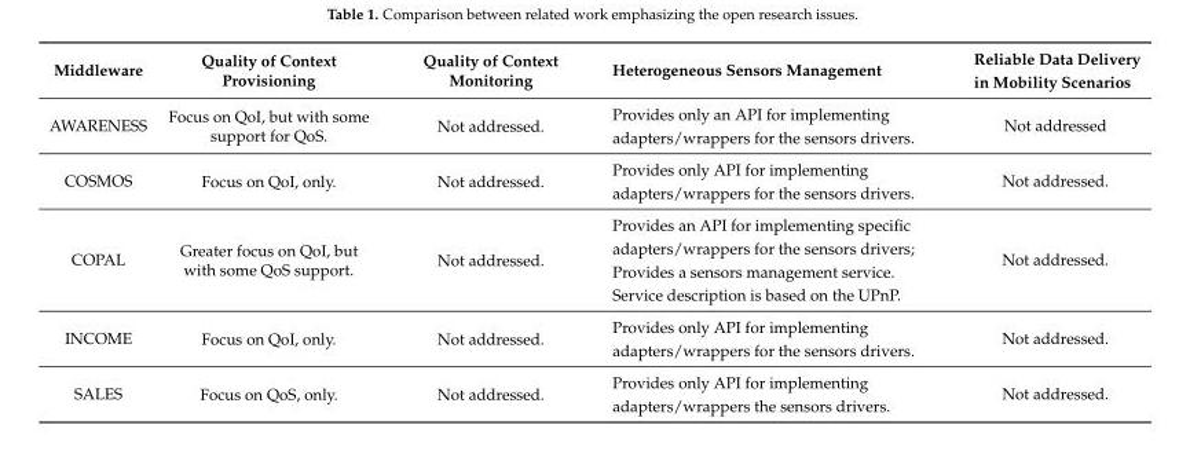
<table><thead><tr><td>Middleware</td><td>Quality of Context Provisioning</td><td>Quality of Context Monitoring</td><td>Heterogeneous Sensors Management</td><td>Reliable Data Delivery in Mobility Scenarios</td></tr></thead><tbody><tr><td>AWARENESS</td><td>Focus on QoI, but with some support for QoS.</td><td>Not addressed.</td><td>Provides only an API for implementing adapters/wrappers for the sensors drivers.</td><td>Not addressed</td></tr><tr><td>COSMOS</td><td>Focus on QoI, only.</td><td>Not addressed.</td><td>Provides only API for implementing adapters/wrappers for the sensors drivers.</td><td>Not addressed.</td></tr><tr><td>COPAL</td><td>Greater focus on QoI, but with some QoS support.</td><td>Not addressed.</td><td>Provides an API for implementing specific adapters/wrappers for the sensors drivers; Provides a sensors management service. Service description is based on the UPnP.</td><td>Not addressed.</td></tr><tr><td>INCOME</td><td>Focus on QoI, only.</td><td>Not addressed.</td><td>Provides only API for implementing adapters/wrappers for the sensors drivers.</td><td>Not addressed.</td></tr><tr><td>SALES</td><td>Focus on QoS, only.</td><td>Not addressed.</td><td>Provides only API for implementing adapters/wrappers the sensors drivers.</td><td>Not addressed.</td></tr></tbody></table>